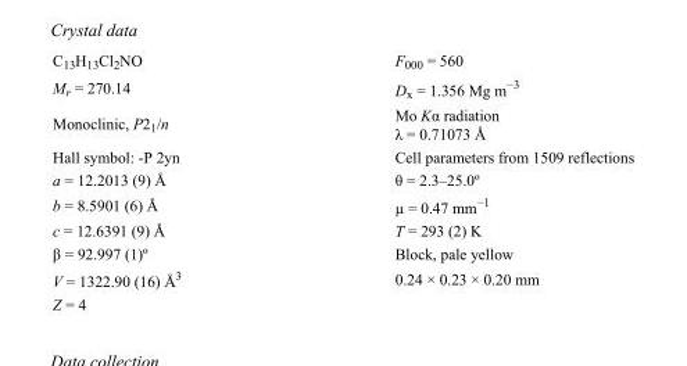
<table><tbody><tr><td>C<sub>13</sub>H<sub>13</sub>Cl<sub>2</sub>NO</td><td>F<sub>000</sub> = 560</td></tr><tr><td>M<sub>r</sub> = 270.14</td><td>D<sub>x</sub> = 1.356 Mg m<sup>−3</sup></td></tr><tr><td>Monoclinic, P2<sub>1</sub>/n</td><td>Mo Kα radiation λ = 0.71073 Å</td></tr><tr><td>Hall symbol: -P 2yn</td><td>Cell parameters from 1509 reflections</td></tr><tr><td>a = 12.2013 (9) Å</td><td>θ = 2.3–25.0º</td></tr><tr><td>b = 8.5901 (6) Å</td><td>µ = 0.47 mm<sup>−1</sup></td></tr><tr><td>c = 12.6391 (9) Å</td><td>T = 293 (2) K</td></tr><tr><td>β = 92.997 (1)º</td><td>Block, pale yellow</td></tr><tr><td>V = 1322.90 (16) Å<sup>3</sup></td><td>0.24 × 0.23 × 0.20 mm</td></tr><tr><td>Z = 4</td><td></td></tr></tbody></table>